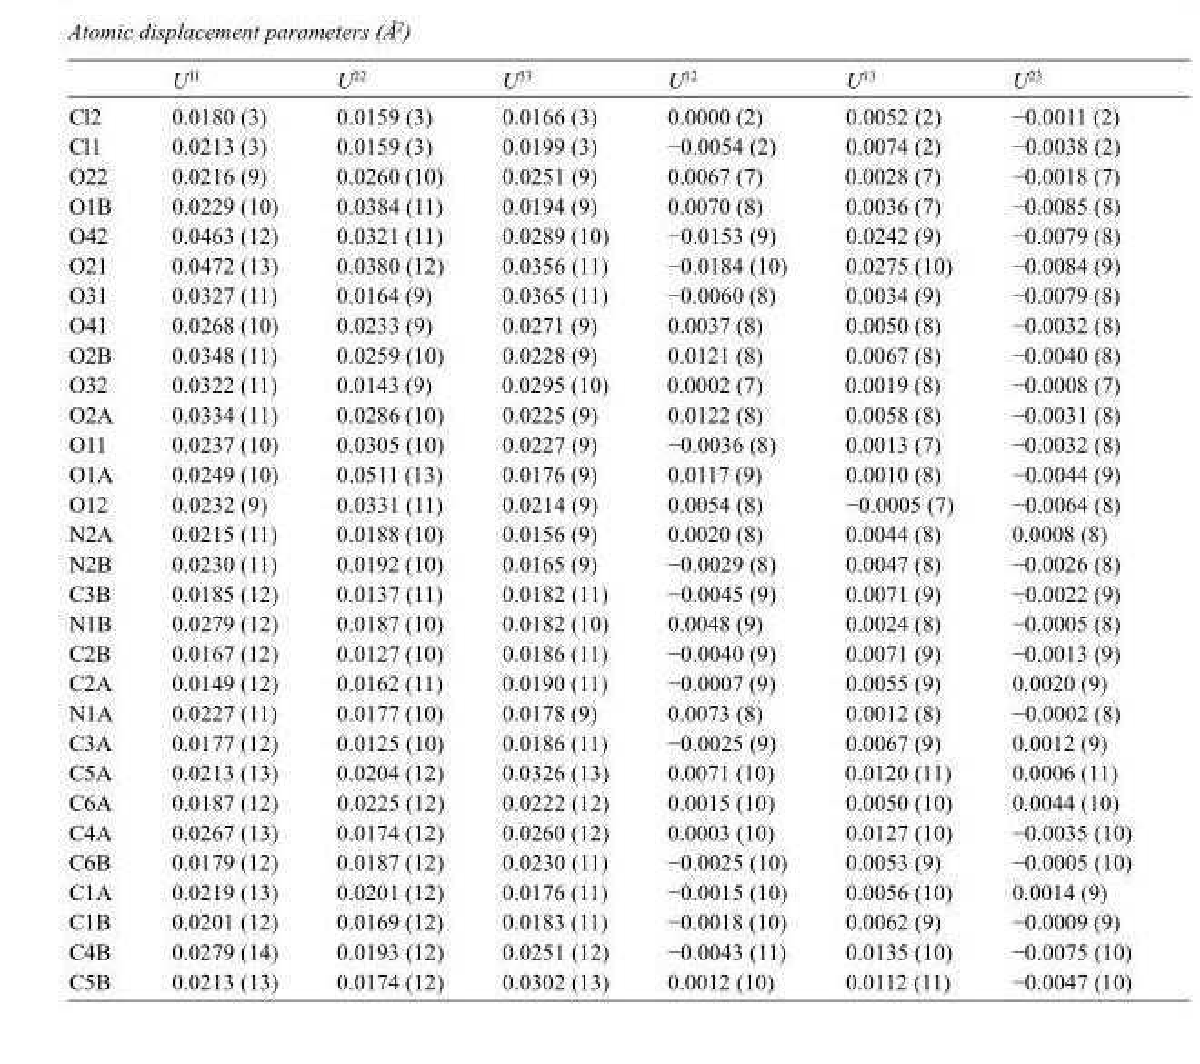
<table><thead><tr><td></td><td>U<sup>11</sup></td><td>U<sup>22</sup></td><td>U<sup>33</sup></td><td>U<sup>12</sup></td><td>U<sup>13</sup></td><td>U<sup>23</sup></td></tr></thead><tbody><tr><td>Cl2</td><td>0.0180 (3)</td><td>0.0159 (3)</td><td>0.0166 (3)</td><td>0.0000 (2)</td><td>0.0052 (2)</td><td>−0.0011 (2)</td></tr><tr><td>Cl1</td><td>0.0213 (3)</td><td>0.0159 (3)</td><td>0.0199 (3)</td><td>−0.0054 (2)</td><td>0.0074 (2)</td><td>−0.0038 (2)</td></tr><tr><td>O22</td><td>0.0216 (9)</td><td>0.0260 (10)</td><td>0.0251 (9)</td><td>0.0067 (7)</td><td>0.0028 (7)</td><td>−0.0018 (7)</td></tr><tr><td>O1B</td><td>0.0229 (10)</td><td>0.0384 (11)</td><td>0.0194 (9)</td><td>0.0070 (8)</td><td>0.0036 (7)</td><td>−0.0085 (8)</td></tr><tr><td>O42</td><td>0.0463 (12)</td><td>0.0321 (11)</td><td>0.0289 (10)</td><td>−0.0153 (9)</td><td>0.0242 (9)</td><td>−0.0079 (8)</td></tr><tr><td>O21</td><td>0.0472 (13)</td><td>0.0380 (12)</td><td>0.0356 (11)</td><td>−0.0184 (10)</td><td>0.0275 (10)</td><td>−0.0084 (9)</td></tr><tr><td>O31</td><td>0.0327 (11)</td><td>0.0164 (9)</td><td>0.0365 (11)</td><td>−0.0060 (8)</td><td>0.0034 (9)</td><td>−0.0079 (8)</td></tr><tr><td>O41</td><td>0.0268 (10)</td><td>0.0233 (9)</td><td>0.0271 (9)</td><td>0.0037 (8)</td><td>0.0050 (8)</td><td>−0.0032 (8)</td></tr><tr><td>O2B</td><td>0.0348 (11)</td><td>0.0259 (10)</td><td>0.0228 (9)</td><td>0.0121 (8)</td><td>0.0067 (8)</td><td>−0.0040 (8)</td></tr><tr><td>O32</td><td>0.0322 (11)</td><td>0.0143 (9)</td><td>0.0295 (10)</td><td>0.0002 (7)</td><td>0.0019 (8)</td><td>−0.0008 (7)</td></tr><tr><td>O2A</td><td>0.0334 (11)</td><td>0.0286 (10)</td><td>0.0225 (9)</td><td>0.0122 (8)</td><td>0.0058 (8)</td><td>−0.0031 (8)</td></tr><tr><td>O11</td><td>0.0237 (10)</td><td>0.0305 (10)</td><td>0.0227 (9)</td><td>−0.0036 (8)</td><td>0.0013 (7)</td><td>−0.0032 (8)</td></tr><tr><td>O1A</td><td>0.0249 (10)</td><td>0.0511 (13)</td><td>0.0176 (9)</td><td>0.0117 (9)</td><td>0.0010 (8)</td><td>−0.0044 (9)</td></tr><tr><td>O12</td><td>0.0232 (9)</td><td>0.0331 (11)</td><td>0.0214 (9)</td><td>0.0054 (8)</td><td>−0.0005 (7)</td><td>−0.0064 (8)</td></tr><tr><td>N2A</td><td>0.0215 (11)</td><td>0.0188 (10)</td><td>0.0156 (9)</td><td>0.0020 (8)</td><td>0.0044 (8)</td><td>0.0008 (8)</td></tr><tr><td>N2B</td><td>0.0230 (11)</td><td>0.0192 (10)</td><td>0.0165 (9)</td><td>−0.0029 (8)</td><td>0.0047 (8)</td><td>−0.0026 (8)</td></tr><tr><td>C3B</td><td>0.0185 (12)</td><td>0.0137 (11)</td><td>0.0182 (11)</td><td>−0.0045 (9)</td><td>0.0071 (9)</td><td>−0.0022 (9)</td></tr><tr><td>N1B</td><td>0.0279 (12)</td><td>0.0187 (10)</td><td>0.0182 (10)</td><td>0.0048 (9)</td><td>0.0024 (8)</td><td>−0.0005 (8)</td></tr><tr><td>C2B</td><td>0.0167 (12)</td><td>0.0127 (10)</td><td>0.0186 (11)</td><td>−0.0040 (9)</td><td>0.0071 (9)</td><td>−0.0013 (9)</td></tr><tr><td>C2A</td><td>0.0149 (12)</td><td>0.0162 (11)</td><td>0.0190 (11)</td><td>−0.0007 (9)</td><td>0.0055 (9)</td><td>0.0020 (9)</td></tr><tr><td>N1A</td><td>0.0227 (11)</td><td>0.0177 (10)</td><td>0.0178 (9)</td><td>0.0073 (8)</td><td>0.0012 (8)</td><td>−0.0002 (8)</td></tr><tr><td>C3A</td><td>0.0177 (12)</td><td>0.0125 (10)</td><td>0.0186 (11)</td><td>−0.0025 (9)</td><td>0.0067 (9)</td><td>0.0012 (9)</td></tr><tr><td>C5A</td><td>0.0213 (13)</td><td>0.0204 (12)</td><td>0.0326 (13)</td><td>0.0071 (10)</td><td>0.0120 (11)</td><td>0.0006 (11)</td></tr><tr><td>C6A</td><td>0.0187 (12)</td><td>0.0225 (12)</td><td>0.0222 (12)</td><td>0.0015 (10)</td><td>0.0050 (10)</td><td>0.0044 (10)</td></tr><tr><td>C4A</td><td>0.0267 (13)</td><td>0.0174 (12)</td><td>0.0260 (12)</td><td>0.0003 (10)</td><td>0.0127 (10)</td><td>−0.0035 (10)</td></tr><tr><td>C6B</td><td>0.0179 (12)</td><td>0.0187 (12)</td><td>0.0230 (11)</td><td>−0.0025 (10)</td><td>0.0053 (9)</td><td>−0.0005 (10)</td></tr><tr><td>C1A</td><td>0.0219 (13)</td><td>0.0201 (12)</td><td>0.0176 (11)</td><td>−0.0015 (10)</td><td>0.0056 (10)</td><td>0.0014 (9)</td></tr><tr><td>C1B</td><td>0.0201 (12)</td><td>0.0169 (12)</td><td>0.0183 (11)</td><td>−0.0018 (10)</td><td>0.0062 (9)</td><td>−0.0009 (9)</td></tr><tr><td>C4B</td><td>0.0279 (14)</td><td>0.0193 (12)</td><td>0.0251 (12)</td><td>−0.0043 (11)</td><td>0.0135 (10)</td><td>−0.0075 (10)</td></tr><tr><td>C5B</td><td>0.0213 (13)</td><td>0.0174 (12)</td><td>0.0302 (13)</td><td>0.0012 (10)</td><td>0.0112 (11)</td><td>−0.0047 (10)</td></tr></tbody></table>